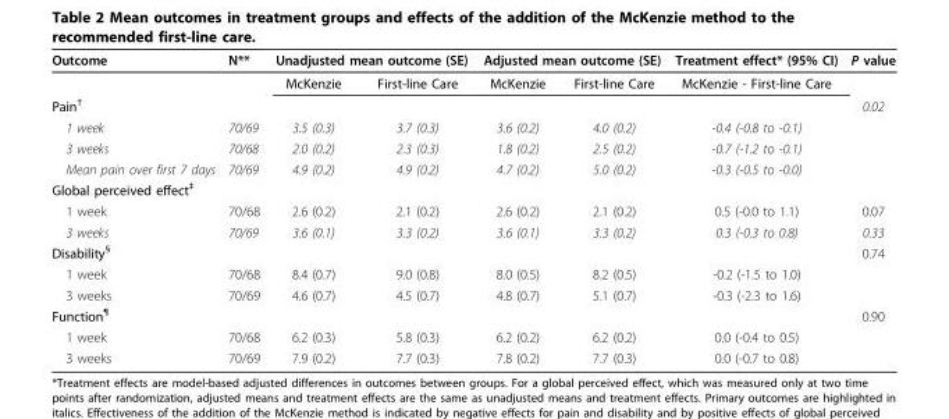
<table><thead><tr><td rowspan="2">Outcome</td><td rowspan="2">N**</td><td colspan="2">Unadjusted mean outcome (SE)</td><td colspan="2">Adjusted mean outcome (SE)</td><td rowspan="2">Treatment effect* (95% CI) McKenzie - First-line Care</td><td rowspan="2">P value</td></tr><tr><td>McKenzie</td><td>First-line Care</td><td>McKenzie</td><td>First-line Care</td></tr></thead><tbody><tr><td>Pain<sup>†</sup></td><td></td><td></td><td></td><td></td><td></td><td></td><td>0.02</td></tr><tr><td>1 week</td><td>70/69</td><td>3.5 (0.3)</td><td>3.7 (0.3)</td><td>3.6 (0.2)</td><td>4.0 (0.2)</td><td>-0.4 (-0.8 to -0.1)</td><td></td></tr><tr><td>3 weeks</td><td>70/68</td><td>2.0 (0.2)</td><td>2.3 (0.3)</td><td>1.8 (0.2)</td><td>2.5 (0.2)</td><td>-0.7 (-1.2 to -0.1)</td><td></td></tr><tr><td>Mean pain over first 7 days</td><td>70/69</td><td>4.9 (0.2)</td><td>4.9 (0.2)</td><td>4.7 (0.2)</td><td>5.0 (0.2)</td><td>-0.3 (-0.5 to -0.0)</td><td></td></tr><tr><td colspan="8">Global perceived effect<sup>‡</sup></td></tr><tr><td>1 week</td><td>70/68</td><td>2.6 (0.2)</td><td>2.1 (0.2)</td><td>2.6 (0.2)</td><td>2.1 (0.2)</td><td>0.5 (-0.0 to 1.1)</td><td>0.07</td></tr><tr><td>3 weeks</td><td>70/69</td><td>3.6 (0.1)</td><td>3.3 (0.2)</td><td>3.6 (0.1)</td><td>3.3 (0.2)</td><td>0.3 (-0.3 to 0.8)</td><td>0.33</td></tr><tr><td>Disability<sup>§</sup></td><td></td><td></td><td></td><td></td><td></td><td></td><td>0.74</td></tr><tr><td>1 week</td><td>70/68</td><td>8.4 (0.7)</td><td>9.0 (0.8)</td><td>8.0 (0.5)</td><td>8.2 (0.5)</td><td>-0.2 (-1.5 to 1.0)</td><td></td></tr><tr><td>3 weeks</td><td>70/69</td><td>4.6 (0.7)</td><td>4.5 (0.7)</td><td>4.8 (0.7)</td><td>5.1 (0.7)</td><td>-0.3 (-2.3 to 1.6)</td><td></td></tr><tr><td>Function<sup>¶</sup></td><td></td><td></td><td></td><td></td><td></td><td></td><td>0.90</td></tr><tr><td>1 week</td><td>70/68</td><td>6.2 (0.3)</td><td>5.8 (0.3)</td><td>6.2 (0.2)</td><td>6.2 (0.2)</td><td>0.0 (-0.4 to 0.5)</td><td></td></tr><tr><td>3 weeks</td><td>70/69</td><td>7.9 (0.2)</td><td>7.7 (0.3)</td><td>7.8 (0.2)</td><td>7.7 (0.3)</td><td>0.0 (-0.7 to 0.8)</td><td></td></tr></tbody></table>